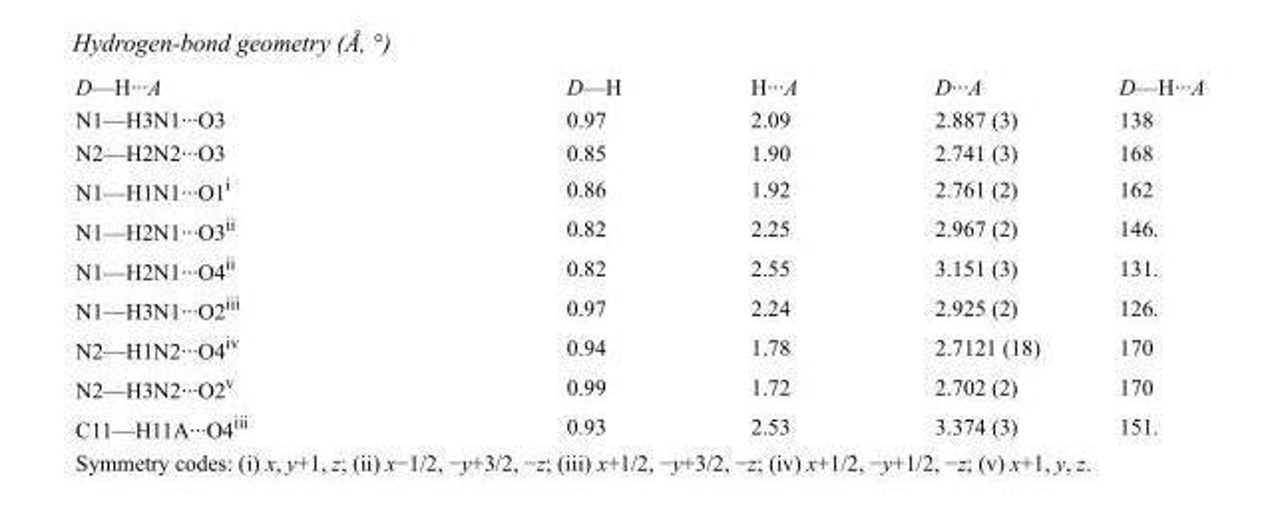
<table><tbody><tr><td>D—H···A</td><td>D—H</td><td>H···A</td><td>D···A</td><td>D—H···A</td></tr><tr><td>N1—H3N1···O3</td><td>0.97</td><td>2.09</td><td>2.887 (3)</td><td>138</td></tr><tr><td>N2—H2N2···O3</td><td>0.85</td><td>1.90</td><td>2.741 (3)</td><td>168</td></tr><tr><td>N1—H1N1···O1<sup>i</sup></td><td>0.86</td><td>1.92</td><td>2.761 (2)</td><td>162</td></tr><tr><td>N1—H2N1···O3<sup>ii</sup></td><td>0.82</td><td>2.25</td><td>2.967 (2)</td><td>146.</td></tr><tr><td>N1—H2N1···O4<sup>ii</sup></td><td>0.82</td><td>2.55</td><td>3.151 (3)</td><td>131.</td></tr><tr><td>N1—H3N1···O2<sup>iii</sup></td><td>0.97</td><td>2.24</td><td>2.925 (2)</td><td>126.</td></tr><tr><td>N2—H1N2···O4<sup>iv</sup></td><td>0.94</td><td>1.78</td><td>2.7121 (18)</td><td>170</td></tr><tr><td>N2—H3N2···O2<sup>v</sup></td><td>0.99</td><td>1.72</td><td>2.702 (2)</td><td>170</td></tr><tr><td>C11—H11A···O4<sup>iii</sup></td><td>0.93</td><td>2.53</td><td>3.374 (3)</td><td>151.</td></tr></tbody></table>